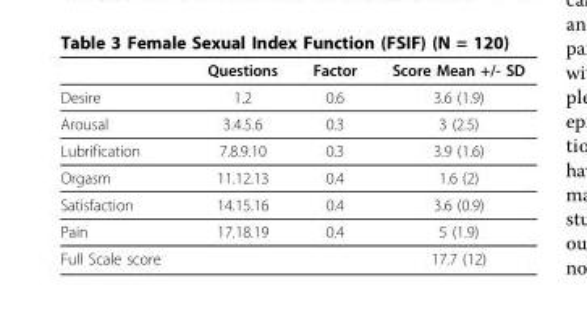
<table><thead><tr><td></td><td>Questions</td><td>Factor</td><td>Score Mean +/- SD</td></tr></thead><tbody><tr><td>Desire</td><td>1.2</td><td>0.6</td><td>3.6 (1.9)</td></tr><tr><td>Arousal</td><td>3.4.5.6</td><td>0.3</td><td>3 (2.5)</td></tr><tr><td>Lubrification</td><td>7.8.9.10</td><td>0.3</td><td>3.9 (1.6)</td></tr><tr><td>Orgasm</td><td>11.12.13</td><td>0.4</td><td>1.6 (2)</td></tr><tr><td>Satisfaction</td><td>14.15.16</td><td>0.4</td><td>3.6 (0.9)</td></tr><tr><td>Pain</td><td>17.18.19</td><td>0.4</td><td>5 (1.9)</td></tr><tr><td>Full Scale score</td><td></td><td></td><td>17.7 (12)</td></tr></tbody></table>